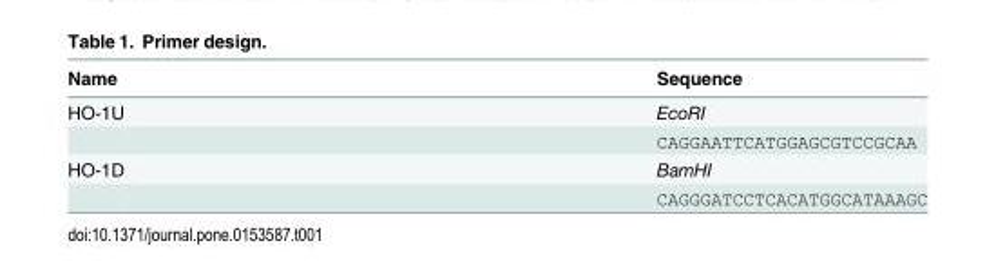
<table><thead><tr><td>Name</td><td>Sequence</td></tr></thead><tbody><tr><td rowspan="2">HO-1U</td><td>EcoRI</td></tr><tr><td>CAGGAATTCATGGAGCGTCCGCAA</td></tr><tr><td rowspan="2">HO-1D</td><td>BamHI</td></tr><tr><td>CAGGGATCCTCACATGGCATAAAGC</td></tr></tbody></table>